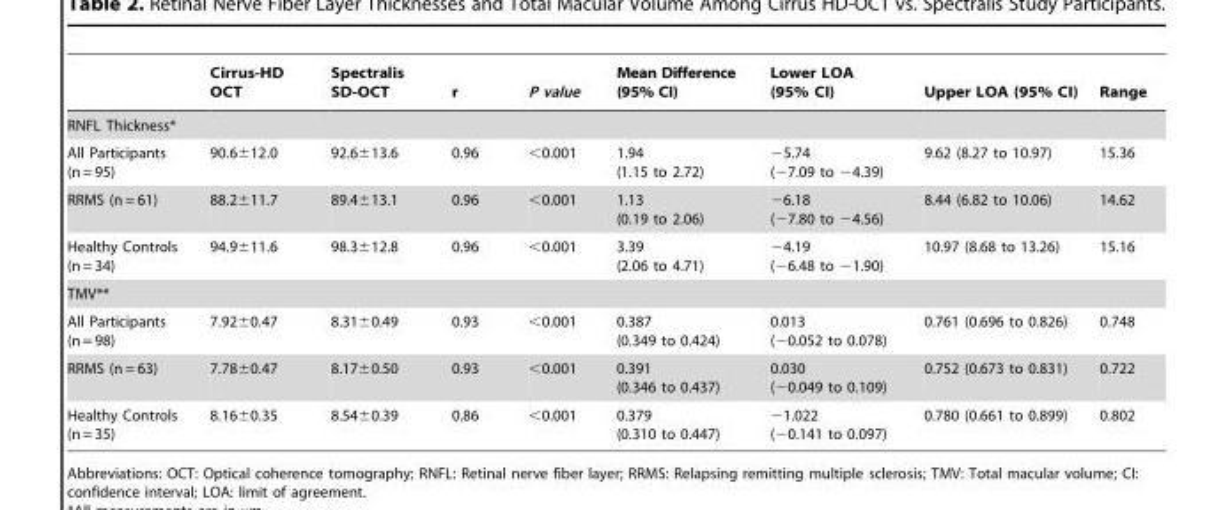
<table><thead><tr><td></td><td>Cirrus-HD OCT</td><td>Spectralis SD-OCT</td><td>r</td><td>P value</td><td>Mean Difference (95% CI)</td><td>Lower LOA (95% CI)</td><td>Upper LOA (95% CI)</td><td>Range</td></tr></thead><tbody><tr><td colspan="9">RNFL Thickness*</td></tr><tr><td>All Participants (n = 95)</td><td>90.6±12.0</td><td>92.6±13.6</td><td>0.96</td><td>&lt;0.001</td><td>1.94 (1.15 to 2.72)</td><td>−5.74 (−7.09 to −4.39)</td><td>9.62 (8.27 to 10.97)</td><td>15.36</td></tr><tr><td>RRMS (n = 61)</td><td>88.2±11.7</td><td>89.4±13.1</td><td>0.96</td><td>&lt;0.001</td><td>1.13 (0.19 to 2.06)</td><td>−6.18 (−7.80 to −4.56)</td><td>8.44 (6.82 to 10.06)</td><td>14.62</td></tr><tr><td>Healthy Controls (n = 34)</td><td>94.9±11.6</td><td>98.3±12.8</td><td>0.96</td><td>&lt;0.001</td><td>3.39 (2.06 to 4.71)</td><td>−4.19 (−6.48 to −1.90)</td><td>10.97 (8.68 to 13.26)</td><td>15.16</td></tr><tr><td colspan="9">TMV**</td></tr><tr><td>All Participants (n = 98)</td><td>7.92±0.47</td><td>8.31±0.49</td><td>0.93</td><td>&lt;0.001</td><td>0.387 (0.349 to 0.424)</td><td>0.013 (−0.052 to 0.078)</td><td>0.761 (0.696 to 0.826)</td><td>0.748</td></tr><tr><td>RRMS (n = 63)</td><td>7.78±0.47</td><td>8.17±0.50</td><td>0.93</td><td>&lt;0.001</td><td>0.391 (0.346 to 0.437)</td><td>0.030 (−0.049 to 0.109)</td><td>0.752 (0.673 to 0.831)</td><td>0.722</td></tr><tr><td>Healthy Controls (n = 35)</td><td>8.16±0.35</td><td>8.54±0.39</td><td>0.86</td><td>&lt;0.001</td><td>0.379 (0.310 to 0.447)</td><td>−1.022 (−0.141 to 0.097)</td><td>0.780 (0.661 to 0.899)</td><td>0.802</td></tr></tbody></table>